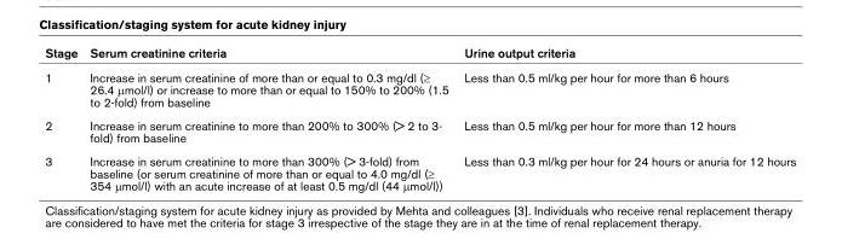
<table><thead><tr><td>Stage</td><td>Serum creatinine criteria</td><td>Urine output criteria</td></tr></thead><tbody><tr><td>1</td><td>Increase in serum creatinine of more than or equal to 0.3 mg/dl (≥ 26.4 μmol/l) or increase to more than or equal to 150% to 200% (1.5 to 2-fold) from baseline</td><td>Less than 0.5 ml/kg per hour for more than 6 hours</td></tr><tr><td>2</td><td>Increase in serum creatinine to more than 200% to 300% (&gt; 2 to 3- fold) from baseline</td><td>Less than 0.5 ml/kg per hour for more than 12 hours</td></tr><tr><td>3</td><td>Increase in serum creatinine to more than 300% (&gt; 3-fold) from baseline (or serum creatinine of more than or equal to 4.0 mg/dl (≥ 354 μmol/l) with an acute increase of at least 0.5 mg/dl (44 μmol/l))</td><td>Less than 0.3 ml/kg per hour for 24 hours or anuria for 12 hours</td></tr></tbody></table>